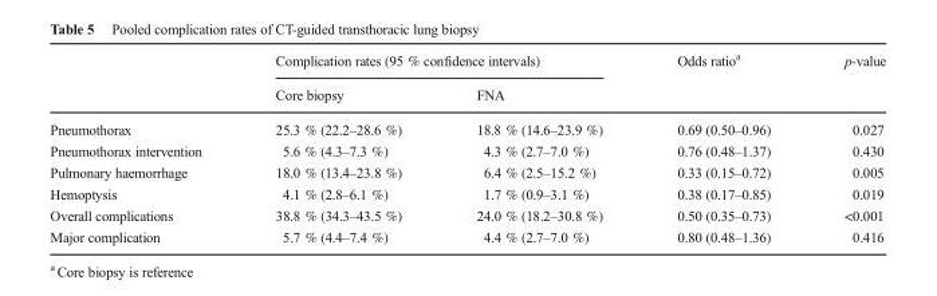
<table><thead><tr><td rowspan="2"></td><td colspan="2">Complication rates (95 % confidence intervals)</td><td rowspan="2">Odds ratio<sup>a</sup></td><td rowspan="2">p-value</td></tr><tr><td>Core biopsy</td><td>FNA</td></tr></thead><tbody><tr><td>Pneumothorax</td><td>25.3 % (22.2–28.6 %)</td><td>18.8 % (14.6–23.9 %)</td><td>0.69 (0.50–0.96)</td><td>0.027</td></tr><tr><td>Pneumothorax intervention</td><td>5.6 % (4.3–7.3 %)</td><td>4.3 % (2.7–7.0 %)</td><td>0.76 (0.48–1.37)</td><td>0.430</td></tr><tr><td>Pulmonary haemorrhage</td><td>18.0 % (13.4–23.8 %)</td><td>6.4 % (2.5–15.2 %)</td><td>0.33 (0.15–0.72)</td><td>0.005</td></tr><tr><td>Hemoptysis</td><td>4.1 % (2.8–6.1 %)</td><td>1.7 % (0.9–3.1 %)</td><td>0.38 (0.17–0.85)</td><td>0.019</td></tr><tr><td>Overall complications</td><td>38.8 % (34.3–43.5 %)</td><td>24.0 % (18.2–30.8 %)</td><td>0.50 (0.35–0.73)</td><td>&lt;0.001</td></tr><tr><td>Major complication</td><td>5.7 % (4.4–7.4 %)</td><td>4.4 % (2.7–7.0 %)</td><td>0.80 (0.48–1.36)</td><td>0.416</td></tr></tbody></table>